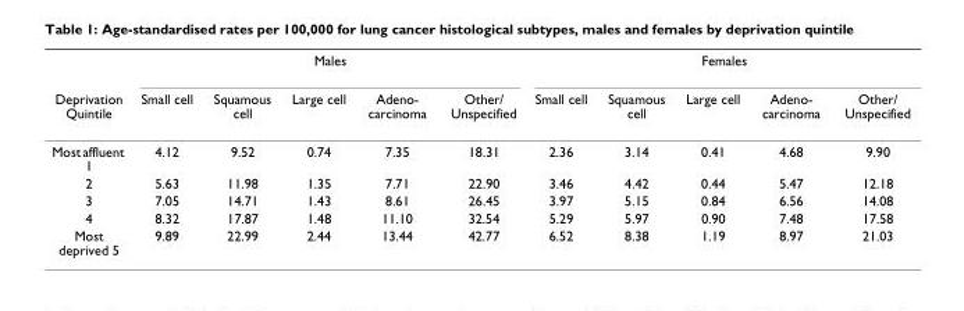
<table><thead><tr><td rowspan="2">Deprivation Quintile</td><td colspan="5">Males</td><td colspan="5">Females</td></tr><tr><td>Small cell</td><td>Squamous cell</td><td>Large cell</td><td>Adeno- carcinoma</td><td>Other/ Unspecified</td><td>Small cell</td><td>Squamous cell</td><td>Large cell</td><td>Adeno- carcinoma</td><td>Other/ Unspecified</td></tr></thead><tbody><tr><td>Most affluent 1</td><td>4.12</td><td>9.52</td><td>0.74</td><td>7.35</td><td>18.31</td><td>2.36</td><td>3.14</td><td>0.41</td><td>4.68</td><td>9.90</td></tr><tr><td>2</td><td>5.63</td><td>11.98</td><td>1.35</td><td>7.71</td><td>22.90</td><td>3.46</td><td>4.42</td><td>0.44</td><td>5.47</td><td>12.18</td></tr><tr><td>3</td><td>7.05</td><td>14.71</td><td>1.43</td><td>8.61</td><td>26.45</td><td>3.97</td><td>5.15</td><td>0.84</td><td>6.56</td><td>14.08</td></tr><tr><td>4</td><td>8.32</td><td>17.87</td><td>1.48</td><td>11.10</td><td>32.54</td><td>5.29</td><td>5.97</td><td>0.90</td><td>7.48</td><td>17.58</td></tr><tr><td>Most deprived 5</td><td>9.89</td><td>22.99</td><td>2.44</td><td>13.44</td><td>42.77</td><td>6.52</td><td>8.38</td><td>1.19</td><td>8.97</td><td>21.03</td></tr></tbody></table>